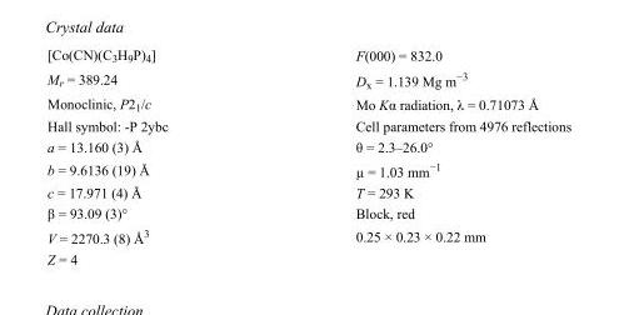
<table><tbody><tr><td>[Co(CN)(C<sub>3</sub>H<sub>9</sub>P)<sub>4</sub>]</td><td>F(000) = 832.0</td></tr><tr><td>M<sub>r</sub> = 389.24</td><td>D<sub>x</sub> = 1.139 Mg m<sup>−3</sup></td></tr><tr><td>Monoclinic, P2<sub>1</sub>/c</td><td>Mo Kα radiation, λ = 0.71073 Å</td></tr><tr><td>Hall symbol: -P 2ybc</td><td>Cell parameters from 4976 reflections</td></tr><tr><td>a = 13.160 (3) Å</td><td>θ = 2.3–26.0°</td></tr><tr><td>b = 9.6136 (19) Å</td><td>µ = 1.03 mm<sup>−1</sup></td></tr><tr><td>c = 17.971 (4) Å</td><td>T = 293 K</td></tr><tr><td>β = 93.09 (3)°</td><td>Block, red</td></tr><tr><td>V = 2270.3 (8) Å<sup>3</sup></td><td>0.25 × 0.23 × 0.22 mm</td></tr><tr><td>Z = 4</td><td></td></tr></tbody></table>